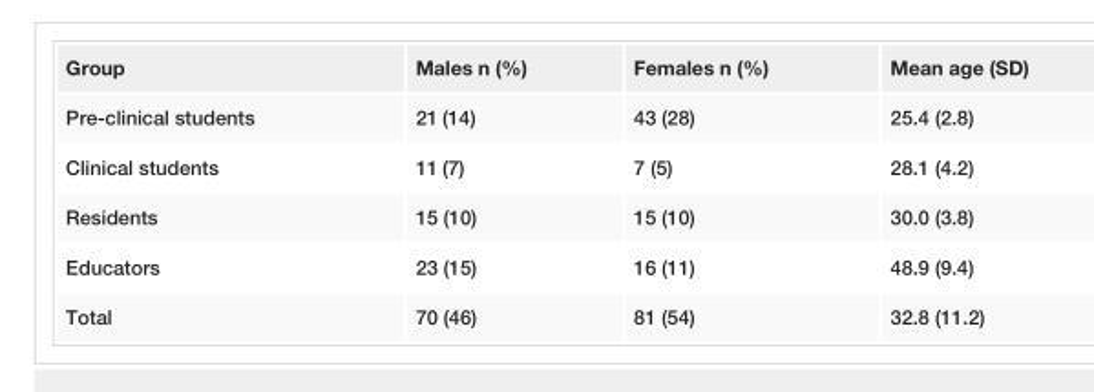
<table><tbody><tr><td>Group</td><td>Males n (%)</td><td>Females n (%)</td><td>Mean age (SD)</td></tr><tr><td>Pre-clinical students</td><td>21 (14)</td><td>43 (28)</td><td>25.4 (2.8)</td></tr><tr><td>Clinical students</td><td>11 (7)</td><td>7 (5)</td><td>28.1 (4.2)</td></tr><tr><td>Residents</td><td>15 (10)</td><td>15 (10)</td><td>30.0 (3.8)</td></tr><tr><td>Educators</td><td>23 (15)</td><td>16 (11)</td><td>48.9 (9.4)</td></tr><tr><td>Total</td><td>70 (46)</td><td>81 (54)</td><td>32.8 (11.2)</td></tr></tbody></table>